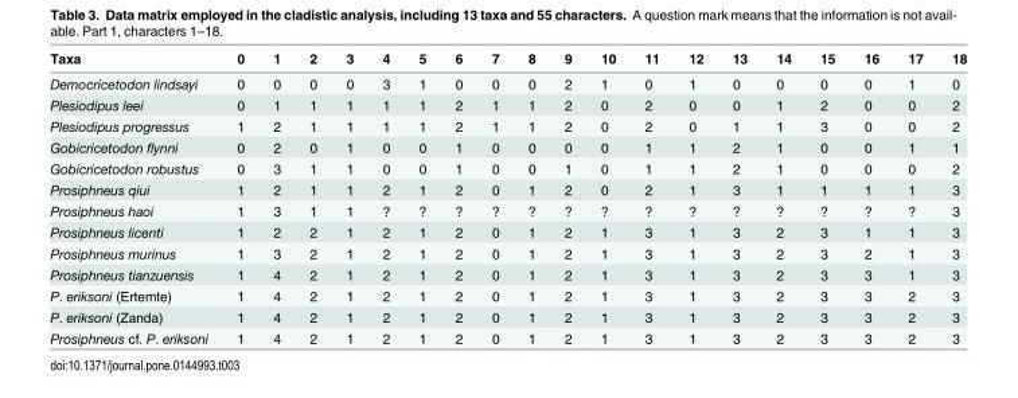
<table><thead><tr><td>Taxa</td><td>0</td><td>1</td><td>2</td><td>3</td><td>4</td><td>5</td><td>6</td><td>7</td><td>8</td><td>9</td><td>10</td><td>11</td><td>12</td><td>13</td><td>14</td><td>15</td><td>16</td><td>17</td><td>18</td></tr></thead><tbody><tr><td>Democricetodon lindsayi</td><td>0</td><td>0</td><td>0</td><td>0</td><td>3</td><td>1</td><td>0</td><td>0</td><td>0</td><td>2</td><td>1</td><td>0</td><td>1</td><td>0</td><td>0</td><td>0</td><td>0</td><td>1</td><td>0</td></tr><tr><td>Plesiodipus leei</td><td>0</td><td>1</td><td>1</td><td>1</td><td>1</td><td>1</td><td>2</td><td>1</td><td>1</td><td>2</td><td>0</td><td>2</td><td>0</td><td>0</td><td>1</td><td>2</td><td>0</td><td>0</td><td>2</td></tr><tr><td>Plesiodipus progressus</td><td>1</td><td>2</td><td>1</td><td>1</td><td>1</td><td>1</td><td>2</td><td>1</td><td>1</td><td>2</td><td>0</td><td>2</td><td>0</td><td>1</td><td>1</td><td>3</td><td>0</td><td>0</td><td>2</td></tr><tr><td>Gobicricetodon flynni</td><td>0</td><td>2</td><td>0</td><td>1</td><td>0</td><td>0</td><td>1</td><td>0</td><td>0</td><td>0</td><td>0</td><td>1</td><td>1</td><td>2</td><td>1</td><td>0</td><td>0</td><td>1</td><td>1</td></tr><tr><td>Gobicricetodon robustus</td><td>0</td><td>3</td><td>1</td><td>1</td><td>0</td><td>0</td><td>1</td><td>0</td><td>0</td><td>1</td><td>0</td><td>1</td><td>1</td><td>2</td><td>1</td><td>0</td><td>0</td><td>0</td><td>2</td></tr><tr><td>Prosiphneus qiui</td><td>1</td><td>2</td><td>1</td><td>1</td><td>2</td><td>1</td><td>2</td><td>0</td><td>1</td><td>2</td><td>0</td><td>2</td><td>1</td><td>3</td><td>1</td><td>1</td><td>1</td><td>1</td><td>3</td></tr><tr><td>Prosiphneus haoi</td><td>1</td><td>3</td><td>1</td><td>1</td><td>?</td><td>?</td><td>?</td><td>?</td><td>?</td><td>?</td><td>?</td><td>?</td><td>?</td><td>?</td><td>?</td><td>?</td><td>?</td><td>?</td><td>3</td></tr><tr><td>Prosiphneus licenti</td><td>1</td><td>2</td><td>2</td><td>1</td><td>2</td><td>1</td><td>2</td><td>0</td><td>1</td><td>2</td><td>1</td><td>3</td><td>1</td><td>3</td><td>2</td><td>3</td><td>1</td><td>1</td><td>3</td></tr><tr><td>Prosiphneus murinus</td><td>1</td><td>3</td><td>2</td><td>1</td><td>2</td><td>1</td><td>2</td><td>0</td><td>1</td><td>2</td><td>1</td><td>3</td><td>1</td><td>3</td><td>2</td><td>3</td><td>2</td><td>1</td><td>3</td></tr><tr><td>Prosiphneus tianzuensis</td><td>1</td><td>4</td><td>2</td><td>1</td><td>2</td><td>1</td><td>2</td><td>0</td><td>1</td><td>2</td><td>1</td><td>3</td><td>1</td><td>3</td><td>2</td><td>3</td><td>3</td><td>1</td><td>3</td></tr><tr><td>P. eriksoni (Ertemte)</td><td>1</td><td>4</td><td>2</td><td>1</td><td>2</td><td>1</td><td>2</td><td>0</td><td>1</td><td>2</td><td>1</td><td>3</td><td>1</td><td>3</td><td>2</td><td>3</td><td>3</td><td>2</td><td>3</td></tr><tr><td>P. eriksoni (Zanda)</td><td>1</td><td>4</td><td>2</td><td>1</td><td>2</td><td>1</td><td>2</td><td>0</td><td>1</td><td>2</td><td>1</td><td>3</td><td>1</td><td>3</td><td>2</td><td>3</td><td>3</td><td>2</td><td>3</td></tr><tr><td>Prosiphneus cf. P. eriksoni</td><td>1</td><td>4</td><td>2</td><td>1</td><td>2</td><td>1</td><td>2</td><td>0</td><td>1</td><td>2</td><td>1</td><td>3</td><td>1</td><td>3</td><td>2</td><td>3</td><td>3</td><td>2</td><td>3</td></tr></tbody></table>